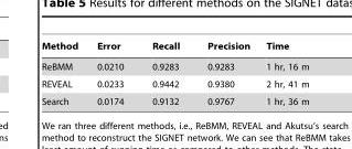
<table><thead><tr><td>Method</td><td>Error</td><td>Recall</td><td>Precision</td><td>Time</td></tr></thead><tbody><tr><td>ReBMM</td><td>0.0210</td><td>0.9283</td><td>0.9283</td><td>1 hr, 16 m</td></tr><tr><td>REVEAL</td><td>0.0233</td><td>0.9442</td><td>0.9380</td><td>2 hr, 41 m</td></tr><tr><td>Search</td><td>0.0174</td><td>0.9132</td><td>0.9767</td><td>1 hr, 36 m</td></tr></tbody></table>